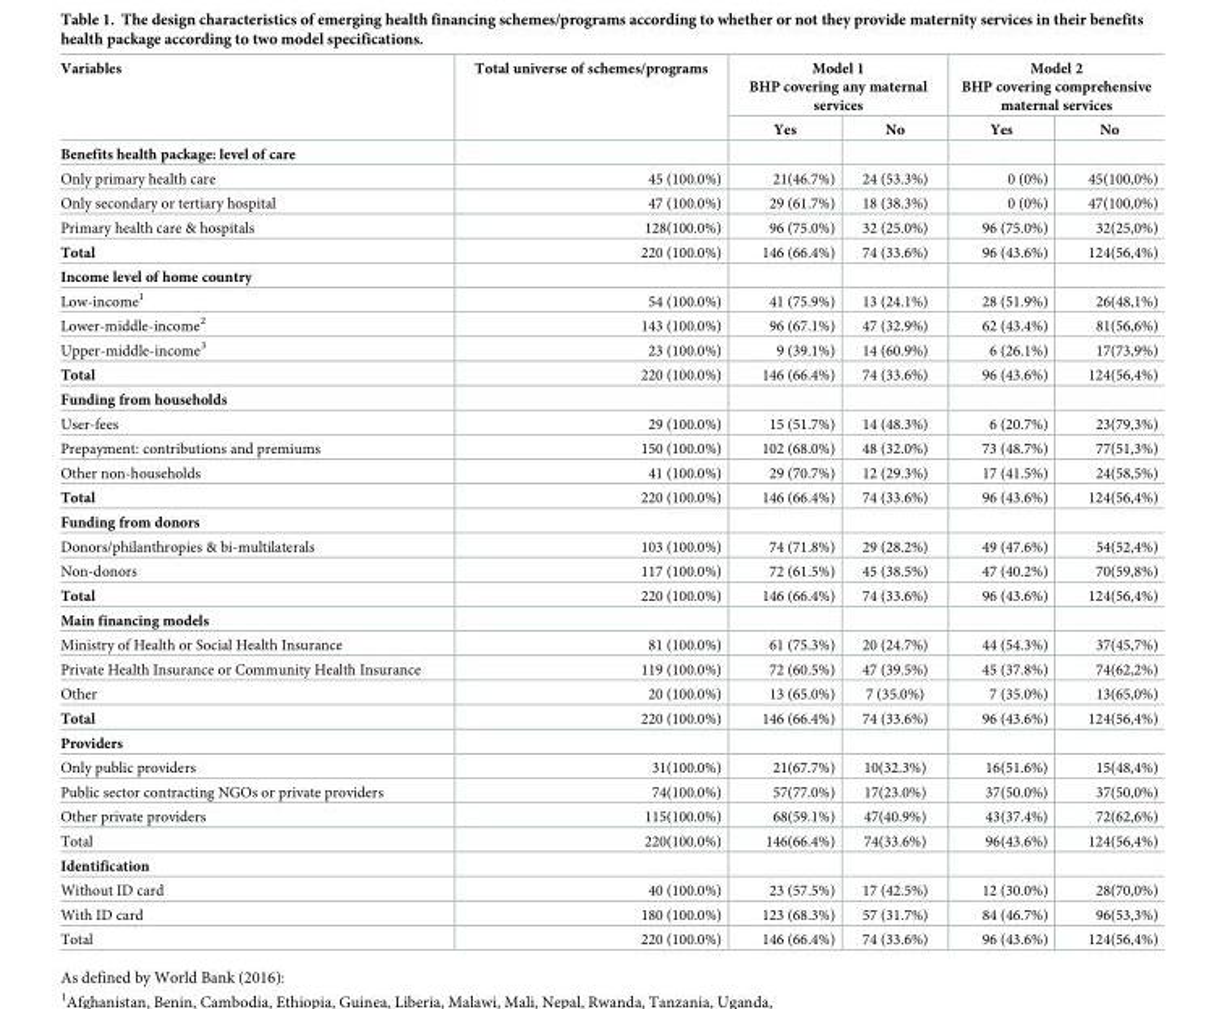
<table><thead><tr><td rowspan="2">Variables</td><td rowspan="2">Total universe of schemes/programs</td><td colspan="2">Model 1 BHP covering any maternal services</td><td colspan="2">Model 2 BHP covering comprehensive maternal services</td></tr><tr><td>Yes</td><td>No</td><td>Yes</td><td>No</td></tr></thead><tbody><tr><td colspan="6">Benefits health package: level of care</td></tr><tr><td>Only primary health care</td><td>45 (100.0%)</td><td>21(46.7%)</td><td>24 (53.3%)</td><td>0 (0%)</td><td>45(100,0%)</td></tr><tr><td>Only secondary or tertiary hospital</td><td>47 (100.0%)</td><td>29 (61.7%)</td><td>18 (38.3%)</td><td>0 (0%)</td><td>47(100,0%)</td></tr><tr><td>Primary health care &amp; hospitals</td><td>128(100.0%)</td><td>96 (75.0%)</td><td>32 (25.0%)</td><td>96 (75.0%)</td><td>32(25,0%)</td></tr><tr><td>Total</td><td>220 (100.0%)</td><td>146 (66.4%)</td><td>74 (33.6%)</td><td>96 (43.6%)</td><td>124(56,4%)</td></tr><tr><td colspan="6">Income level of home country</td></tr><tr><td>Low-income<sup>1</sup></td><td>54 (100.0%)</td><td>41 (75.9%)</td><td>13 (24.1%)</td><td>28 (51.9%)</td><td>26(48,1%)</td></tr><tr><td>Lower-middle-income<sup>2</sup></td><td>143 (100.0%)</td><td>96 (67.1%)</td><td>47 (32.9%)</td><td>62 (43.4%)</td><td>81(56,6%)</td></tr><tr><td>Upper-middle-income<sup>3</sup></td><td>23 (100.0%)</td><td>9 (39.1%)</td><td>14 (60.9%)</td><td>6 (26.1%)</td><td>17(73,9%)</td></tr><tr><td>Total</td><td>220 (100.0%)</td><td>146 (66.4%)</td><td>74 (33.6%)</td><td>96 (43.6%)</td><td>124(56,4%)</td></tr><tr><td colspan="6">Funding from households</td></tr><tr><td>User-fees</td><td>29 (100.0%)</td><td>15 (51.7%)</td><td>14 (48.3%)</td><td>6 (20.7%)</td><td>23(79,3%)</td></tr><tr><td>Prepayment: contributions and premiums</td><td>150 (100.0%)</td><td>102 (68.0%)</td><td>48 (32.0%)</td><td>73 (48.7%)</td><td>77(51,3%)</td></tr><tr><td>Other non-households</td><td>41 (100.0%)</td><td>29 (70.7%)</td><td>12 (29.3%)</td><td>17 (41.5%)</td><td>24(58,5%)</td></tr><tr><td>Total</td><td>220 (100.0%)</td><td>146 (66.4%)</td><td>74 (33.6%)</td><td>96 (43.6%)</td><td>124(56,4%)</td></tr><tr><td colspan="6">Funding from donors</td></tr><tr><td>Donors/philanthropies &amp; bi-multilaterals</td><td>103 (100.0%)</td><td>74 (71.8%)</td><td>29 (28.2%)</td><td>49 (47.6%)</td><td>54(52,4%)</td></tr><tr><td>Non-donors</td><td>117 (100.0%)</td><td>72 (61.5%)</td><td>45 (38.5%)</td><td>47 (40.2%)</td><td>70(59,8%)</td></tr><tr><td>Total</td><td>220 (100.0%)</td><td>146 (66.4%)</td><td>74 (33.6%)</td><td>96 (43.6%)</td><td>124(56,4%)</td></tr><tr><td colspan="6">Main financing models</td></tr><tr><td>Ministry of Health or Social Health Insurance</td><td>81 (100.0%)</td><td>61 (75.3%)</td><td>20 (24.7%)</td><td>44 (54.3%)</td><td>37(45,7%)</td></tr><tr><td>Private Health Insurance or Community Health Insurance</td><td>119 (100.0%)</td><td>72 (60.5%)</td><td>47 (39.5%)</td><td>45 (37.8%)</td><td>74(62,2%)</td></tr><tr><td>Other</td><td>20 (100.0%)</td><td>13 (65.0%)</td><td>7 (35.0%)</td><td>7 (35.0%)</td><td>13(65,0%)</td></tr><tr><td>Total</td><td>220 (100.0%)</td><td>146 (66.4%)</td><td>74 (33.6%)</td><td>96 (43.6%)</td><td>124(56,4%)</td></tr><tr><td colspan="6">Providers</td></tr><tr><td>Only public providers</td><td>31(100.0%)</td><td>21(67.7%)</td><td>10(32.3%)</td><td>16(51.6%)</td><td>15(48,4%)</td></tr><tr><td>Public sector contracting NGOs or private providers</td><td>74(100.0%)</td><td>57(77.0%)</td><td>17(23.0%)</td><td>37(50.0%)</td><td>37(50,0%)</td></tr><tr><td>Other private providers</td><td>115(100.0%)</td><td>68(59.1%)</td><td>47(40.9%)</td><td>43(37.4%)</td><td>72(62,6%)</td></tr><tr><td>Total</td><td>220(100.0%)</td><td>146(66.4%)</td><td>74(33.6%)</td><td>96(43.6%)</td><td>124(56,4%)</td></tr><tr><td colspan="6">Identification</td></tr><tr><td>Without ID card</td><td>40 (100.0%)</td><td>23 (57.5%)</td><td>17 (42.5%)</td><td>12 (30.0%)</td><td>28(70,0%)</td></tr><tr><td>With ID card</td><td>180 (100.0%)</td><td>123 (68.3%)</td><td>57 (31.7%)</td><td>84 (46.7%)</td><td>96(53,3%)</td></tr><tr><td>Total</td><td>220 (100.0%)</td><td>146 (66.4%)</td><td>74 (33.6%)</td><td>96 (43.6%)</td><td>124(56,4%)</td></tr></tbody></table>